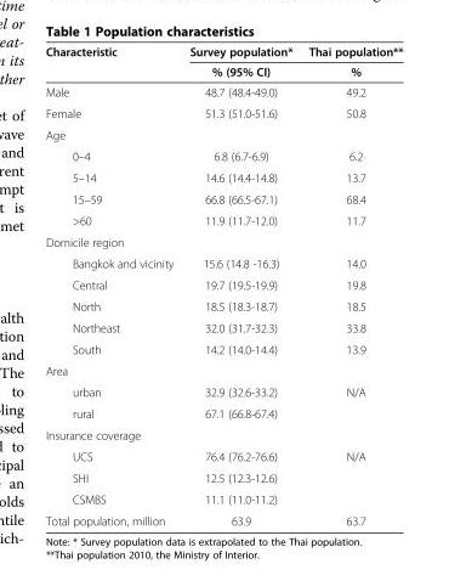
<table><thead><tr><td>Characteristic</td><td>Survey population*</td><td>Thai population**</td></tr></thead><tbody><tr><td></td><td>% (95% CI)</td><td>%</td></tr><tr><td>Male</td><td>48.7 (48.4-49.0)</td><td>49.2</td></tr><tr><td>Female</td><td>51.3 (51.0-51.6)</td><td>50.8</td></tr><tr><td colspan="3">Age</td></tr><tr><td>0–4</td><td>6.8 (6.7-6.9)</td><td>6.2</td></tr><tr><td>5–14</td><td>14.6 (14.4-14.8)</td><td>13.7</td></tr><tr><td>15–59</td><td>66.8 (66.5-67.1)</td><td>68.4</td></tr><tr><td>&gt;60</td><td>11.9 (11.7-12.0)</td><td>11.7</td></tr><tr><td colspan="3">Domicile region</td></tr><tr><td>Bangkok and vicinity</td><td>15.6 (14.8 -16.3)</td><td>14.0</td></tr><tr><td>Central</td><td>19.7 (19.5-19.9)</td><td>19.8</td></tr><tr><td>North</td><td>18.5 (18.3-18.7)</td><td>18.5</td></tr><tr><td>Northeast</td><td>32.0 (31.7-32.3)</td><td>33.8</td></tr><tr><td>South</td><td>14.2 (14.0-14.4)</td><td>13.9</td></tr><tr><td colspan="3">Area</td></tr><tr><td>urban</td><td>32.9 (32.6-33.2)</td><td>N/A</td></tr><tr><td>rural</td><td>67.1 (66.8-67.4)</td><td></td></tr><tr><td colspan="3">Insurance coverage</td></tr><tr><td>UCS</td><td>76.4 (76.2-76.6)</td><td>N/A</td></tr><tr><td>SHI</td><td>12.5 (12.3-12.6)</td><td></td></tr><tr><td>CSMBS</td><td>11.1 (11.0-11.2)</td><td></td></tr><tr><td>Total population, million</td><td>63.9</td><td>63.7</td></tr></tbody></table>